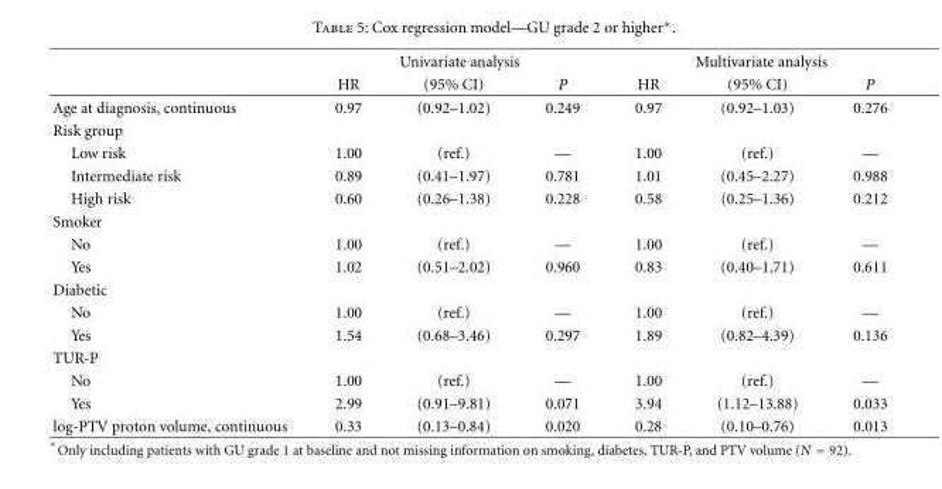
<table><thead><tr><td rowspan="2"></td><td colspan="3">Univariate analysis</td><td colspan="3">Multivariate analysis</td></tr><tr><td>HR</td><td>(95% CI)</td><td>P</td><td>HR</td><td>(95% CI)</td><td>P</td></tr></thead><tbody><tr><td>Age at diagnosis, continuous</td><td>0.97</td><td>(0.92–1.02)</td><td>0.249</td><td>0.97</td><td>(0.92–1.03)</td><td>0.276</td></tr><tr><td colspan="7">Risk group</td></tr><tr><td>Low risk</td><td>1.00</td><td>(ref.)</td><td>—</td><td>1.00</td><td>(ref.)</td><td>—</td></tr><tr><td>Intermediate risk</td><td>0.89</td><td>(0.41–1.97)</td><td>0.781</td><td>1.01</td><td>(0.45–2.27)</td><td>0.988</td></tr><tr><td>High risk</td><td>0.60</td><td>(0.26–1.38)</td><td>0.228</td><td>0.58</td><td>(0.25–1.36)</td><td>0.212</td></tr><tr><td colspan="7">Smoker</td></tr><tr><td>No</td><td>1.00</td><td>(ref.)</td><td>—</td><td>1.00</td><td>(ref.)</td><td>—</td></tr><tr><td>Yes</td><td>1.02</td><td>(0.51–2.02)</td><td>0.960</td><td>0.83</td><td>(0.40–1.71)</td><td>0.611</td></tr><tr><td colspan="7">Diabetic</td></tr><tr><td>No</td><td>1.00</td><td>(ref.)</td><td>—</td><td>1.00</td><td>(ref.)</td><td>—</td></tr><tr><td>Yes</td><td>1.54</td><td>(0.68–3.46)</td><td>0.297</td><td>1.89</td><td>(0.82–4.39)</td><td>0.136</td></tr><tr><td colspan="7">TUR-P</td></tr><tr><td>No</td><td>1.00</td><td>(ref.)</td><td>—</td><td>1.00</td><td>(ref.)</td><td>—</td></tr><tr><td>Yes</td><td>2.99</td><td>(0.91–9.81)</td><td>0.071</td><td>3.94</td><td>(1.12–13.88)</td><td>0.033</td></tr><tr><td>log-PTV proton volume, continuous</td><td>0.33</td><td>(0.13–0.84)</td><td>0.020</td><td>0.28</td><td>(0.10–0.76)</td><td>0.013</td></tr></tbody></table>